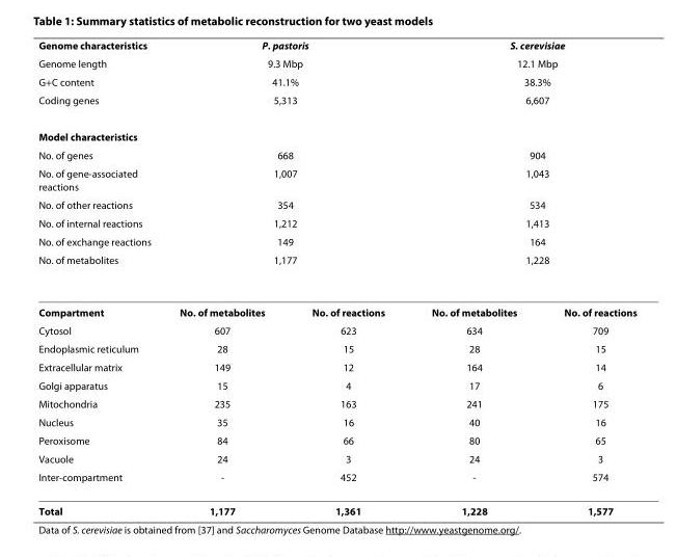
<table><thead><tr><td rowspan="11">Genome characteristics Genome length G+C content Coding genes Model characteristics No. of genes No. of gene-associated reactions No. of other reactions No. of internal reactions No. of exchange reactions No. of metabolites</td><td rowspan="4" colspan="2">P. pastoris 9.3 Mbp 41.1% 5,313</td><td rowspan="4" colspan="2">S. cerevisiae 12.1 Mbp 38.3% 6,607</td></tr><tr></tr><tr></tr><tr></tr><tr><td></td><td></td><td></td><td></td></tr><tr><td rowspan="6" colspan="2">668 1,007 354 1,212 149 1,177</td><td rowspan="6" colspan="2">904 1,043 534 1,413 164 1,228</td></tr><tr></tr><tr></tr><tr></tr><tr></tr><tr></tr></thead><tbody><tr><td>Compartment</td><td>No. of metabolites</td><td>No. of reactions</td><td>No. of metabolites</td><td>No. of reactions</td></tr><tr><td>Cytosol</td><td>607</td><td>623</td><td>634</td><td>709</td></tr><tr><td>Endoplasmic reticulum</td><td>28</td><td>15</td><td>28</td><td>15</td></tr><tr><td>Extracellular matrix</td><td>149</td><td>12</td><td>164</td><td>14</td></tr><tr><td>Golgi apparatus</td><td>15</td><td>4</td><td>17</td><td>6</td></tr><tr><td>Mitochondria</td><td>235</td><td>163</td><td>241</td><td>175</td></tr><tr><td>Nucleus</td><td>35</td><td>16</td><td>40</td><td>16</td></tr><tr><td>Peroxisome</td><td>84</td><td>66</td><td>80</td><td>65</td></tr><tr><td>Vacuole</td><td>24</td><td>3</td><td>24</td><td>3</td></tr><tr><td>Inter-compartment</td><td>-</td><td>452</td><td>-</td><td>574</td></tr><tr><td>Total</td><td>1,177</td><td>1,361</td><td>1,228</td><td>1,577</td></tr></tbody></table>